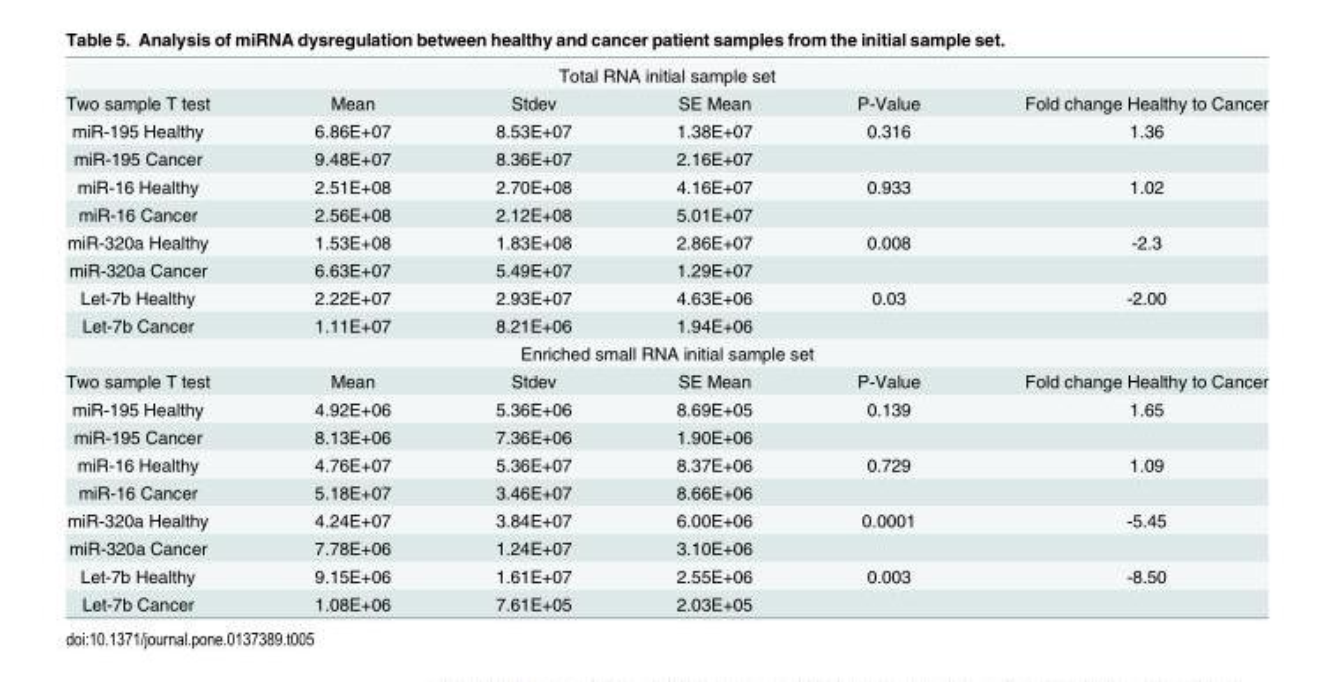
<table><tbody><tr><td colspan="6">Total RNA initial sample set</td></tr><tr><td>Two sample T test</td><td>Mean</td><td>Stdev</td><td>SE Mean</td><td>P-Value</td><td>Fold change Healthy to Cancer</td></tr><tr><td>miR-195 Healthy</td><td>6.86E+07</td><td>8.53E+07</td><td>1.38E+07</td><td>0.316</td><td>1.36</td></tr><tr><td>miR-195 Cancer</td><td>9.48E+07</td><td>8.36E+07</td><td>2.16E+07</td><td></td><td></td></tr><tr><td>miR-16 Healthy</td><td>2.51E+08</td><td>2.70E+08</td><td>4.16E+07</td><td>0.933</td><td>1.02</td></tr><tr><td>miR-16 Cancer</td><td>2.56E+08</td><td>2.12E+08</td><td>5.01E+07</td><td></td><td></td></tr><tr><td>miR-320a Healthy</td><td>1.53E+08</td><td>1.83E+08</td><td>2.86E+07</td><td>0.008</td><td>-2.3</td></tr><tr><td>miR-320a Cancer</td><td>6.63E+07</td><td>5.49E+07</td><td>1.29E+07</td><td></td><td></td></tr><tr><td>Let-7b Healthy</td><td>2.22E+07</td><td>2.93E+07</td><td>4.63E+06</td><td>0.03</td><td>-2.00</td></tr><tr><td>Let-7b Cancer</td><td>1.11E+07</td><td>8.21E+06</td><td>1.94E+06</td><td></td><td></td></tr><tr><td colspan="6">Enriched small RNA initial sample set</td></tr><tr><td>Two sample T test</td><td>Mean</td><td>Stdev</td><td>SE Mean</td><td>P-Value</td><td>Fold change Healthy to Cancer</td></tr><tr><td>miR-195 Healthy</td><td>4.92E+06</td><td>5.36E+06</td><td>8.69E+05</td><td>0.139</td><td>1.65</td></tr><tr><td>miR-195 Cancer</td><td>8.13E+06</td><td>7.36E+06</td><td>1.90E+06</td><td></td><td></td></tr><tr><td>miR-16 Healthy</td><td>4.76E+07</td><td>5.36E+07</td><td>8.37E+06</td><td>0.729</td><td>1.09</td></tr><tr><td>miR-16 Cancer</td><td>5.18E+07</td><td>3.46E+07</td><td>8.66E+06</td><td></td><td></td></tr><tr><td>miR-320a Healthy</td><td>4.24E+07</td><td>3.84E+07</td><td>6.00E+06</td><td>0.0001</td><td>-5.45</td></tr><tr><td>miR-320a Cancer</td><td>7.78E+06</td><td>1.24E+07</td><td>3.10E+06</td><td></td><td></td></tr><tr><td>Let-7b Healthy</td><td>9.15E+06</td><td>1.61E+07</td><td>2.55E+06</td><td>0.003</td><td>-8.50</td></tr><tr><td>Let-7b Cancer</td><td>1.08E+06</td><td>7.61E+05</td><td>2.03E+05</td><td></td><td></td></tr></tbody></table>